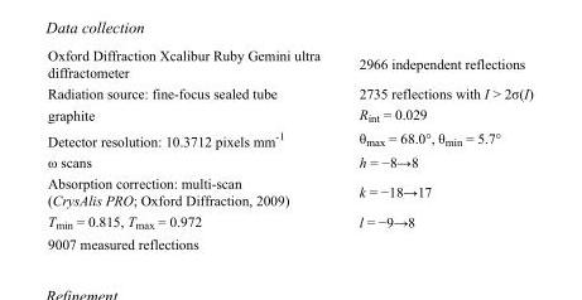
<table><tbody><tr><td>Oxford Diffraction Xcalibur Ruby Gemini ultra diffractometer</td><td>2966 independent reflections</td></tr><tr><td>Radiation source: fine-focus sealed tube</td><td>2735 reflections with I &gt; 2σ(I)</td></tr><tr><td>graphite</td><td>R<sub>int</sub> = 0.029</td></tr><tr><td>Detector resolution: 10.3712 pixels mm<sup>-1</sup></td><td>θ<sub>max</sub> = 68.0°, θ<sub>min</sub> = 5.7°</td></tr><tr><td>ω scans</td><td>h = −8→8</td></tr><tr><td>Absorption correction: multi-scan (CrysAlis PRO; Oxford Diffraction, 2009)</td><td>k = −18→17</td></tr><tr><td>T<sub>min</sub> = 0.815, T<sub>max</sub> = 0.972</td><td>l = −9→8</td></tr><tr><td>9007 measured reflections</td><td></td></tr></tbody></table>